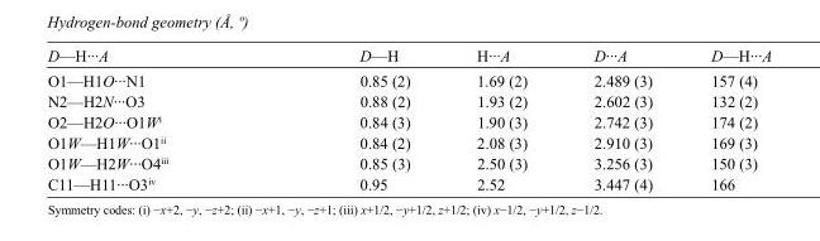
<table><tbody><tr><td>D—H···A</td><td>D—H</td><td>H···A</td><td>D···A</td><td>D—H···A</td></tr><tr><td>O1—H1O···N1</td><td>0.85 (2)</td><td>1.69 (2)</td><td>2.489 (3)</td><td>157 (4)</td></tr><tr><td>N2—H2N···O3</td><td>0.88 (2)</td><td>1.93 (2)</td><td>2.602 (3)</td><td>132 (2)</td></tr><tr><td>O2—H2O···O1W<sup>i</sup></td><td>0.84 (3)</td><td>1.90 (3)</td><td>2.742 (3)</td><td>174 (2)</td></tr><tr><td>O1W—H1W···O1<sup>ii</sup></td><td>0.84 (2)</td><td>2.08 (3)</td><td>2.910 (3)</td><td>169 (3)</td></tr><tr><td>O1W—H2W···O4<sup>iii</sup></td><td>0.85 (3)</td><td>2.50 (3)</td><td>3.256 (3)</td><td>150 (3)</td></tr><tr><td>C11—H11···O3<sup>iv</sup></td><td>0.95</td><td>2.52</td><td>3.447 (4)</td><td>166</td></tr></tbody></table>